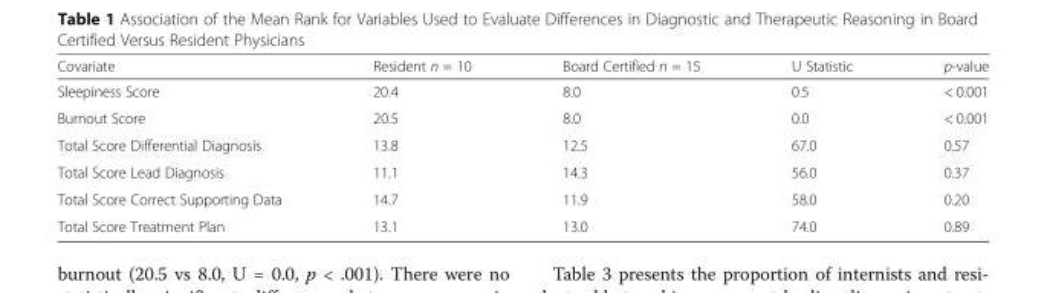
<table><thead><tr><td>Covariate</td><td>Resident n = 10</td><td>Board Certified n = 15</td><td>U Statistic</td><td>p-value</td></tr></thead><tbody><tr><td>Sleepiness Score</td><td>20.4</td><td>8.0</td><td>0.5</td><td>&lt; 0.001</td></tr><tr><td>Burnout Score</td><td>20.5</td><td>8.0</td><td>0.0</td><td>&lt; 0.001</td></tr><tr><td>Total Score Differential Diagnosis</td><td>13.8</td><td>12.5</td><td>67.0</td><td>0.57</td></tr><tr><td>Total Score Lead Diagnosis</td><td>11.1</td><td>14.3</td><td>56.0</td><td>0.37</td></tr><tr><td>Total Score Correct Supporting Data</td><td>14.7</td><td>11.9</td><td>58.0</td><td>0.20</td></tr><tr><td>Total Score Treatment Plan</td><td>13.1</td><td>13.0</td><td>74.0</td><td>0.89</td></tr></tbody></table>